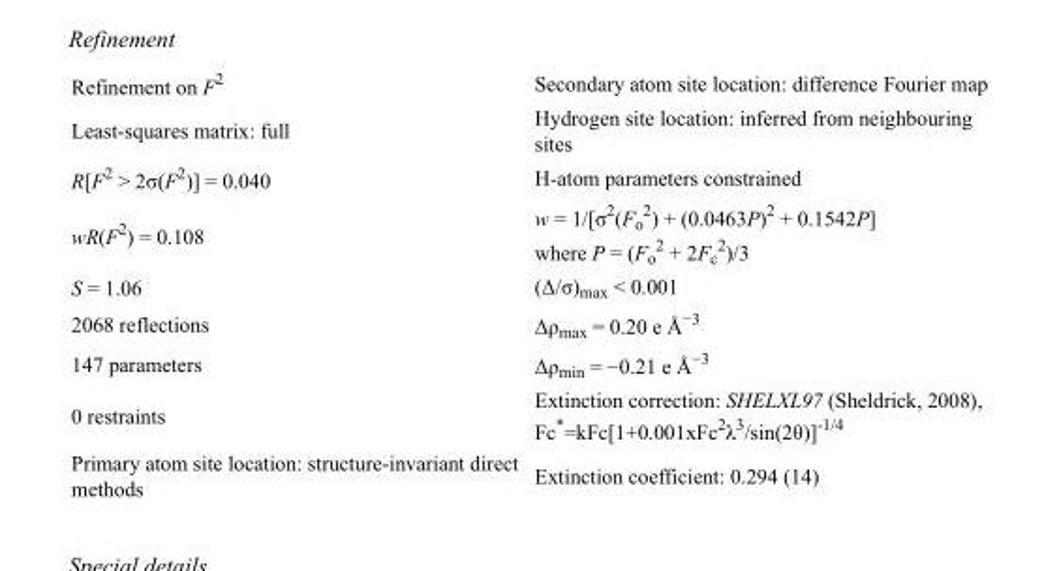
<table><tbody><tr><td>Refinement on F<sup>2</sup></td><td>Secondary atom site location: difference Fourier map</td></tr><tr><td>Least-squares matrix: full</td><td>Hydrogen site location: inferred from neighbouring sites</td></tr><tr><td>R[F<sup>2</sup> &gt; 2σ(F<sup>2</sup>)] = 0.040</td><td>H-atom parameters constrained</td></tr><tr><td>wR(F<sup>2</sup>) = 0.108</td><td>w = 1/[σ<sup>2</sup>(F<sub>o</sub> <sup>2</sup>) + (0.0463P)<sup>2</sup> + 0.1542P] where P = (F<sub>o</sub> <sup>2</sup> + 2F<sub>c</sub> <sup>2</sup>)/3</td></tr><tr><td>S = 1.06</td><td>(Δ/σ)<sub>max</sub> &lt; 0.001</td></tr><tr><td>2068 reflections</td><td>Δρ<sub>max</sub> = 0.20 e Å<sup>−3</sup></td></tr><tr><td>147 parameters</td><td>Δρ<sub>min</sub> = −0.21 e Å<sup>−3</sup></td></tr><tr><td>0 restraints</td><td>Extinction correction: SHELXL97 (Sheldrick, 2008), Fc*=kFc[1+0.001xFc<sup>2</sup>λ<sup>3</sup>/sin(2θ)]<sup>-1/4</sup></td></tr><tr><td>Primary atom site location: structure-invariant direct methods</td><td>Extinction coefficient: 0.294 (14)</td></tr></tbody></table>